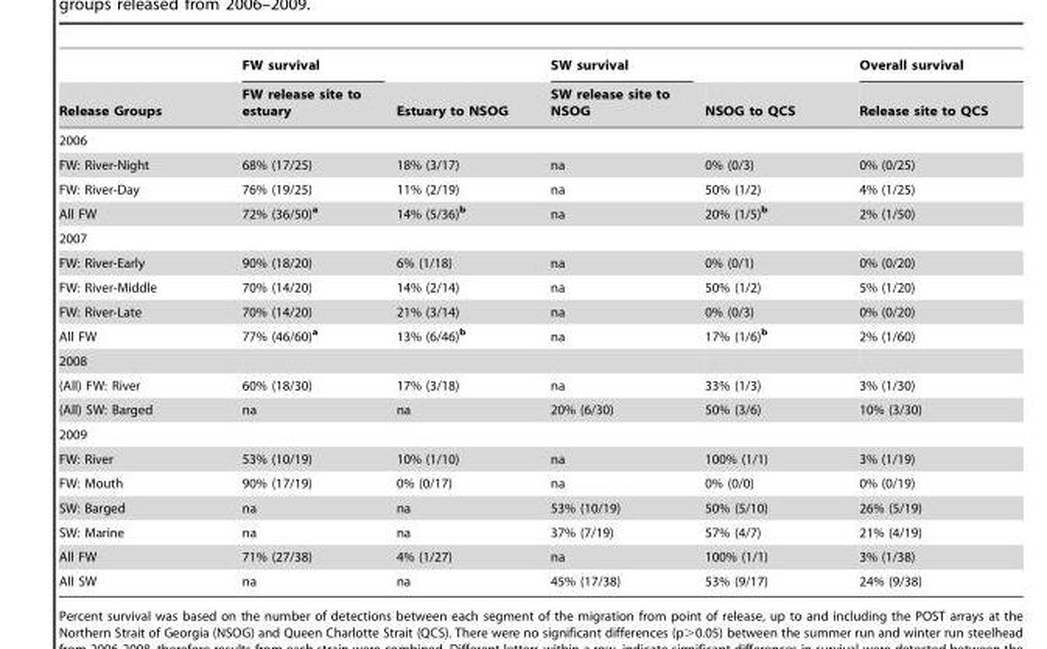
<table><thead><tr><td rowspan="2">Release Groups</td><td rowspan="2">FW survival FW release site to estuary</td><td rowspan="2">Estuary to NSOG</td><td rowspan="2">SW survival SW release site to NSOG</td><td rowspan="2">NSOG to QCS</td><td rowspan="2">Overall survival Release site to QCS</td></tr><tr></tr></thead><tbody><tr><td colspan="6">2006</td></tr><tr><td>FW: River-Night</td><td>68% (17/25)</td><td>18% (3/17)</td><td>na</td><td>0% (0/3)</td><td>0% (0/25)</td></tr><tr><td>FW: River-Day</td><td>76% (19/25)</td><td>11% (2/19)</td><td>na</td><td>50% (1/2)</td><td>4% (1/25)</td></tr><tr><td>All FW</td><td>72% (36/50)<sup>a</sup></td><td>14% (5/36)<sup>b</sup></td><td>na</td><td>20% (1/5)<sup>b</sup></td><td>2% (1/50)</td></tr><tr><td colspan="6">2007</td></tr><tr><td>FW: River-Early</td><td>90% (18/20)</td><td>6% (1/18)</td><td>na</td><td>0% (0/1)</td><td>0% (0/20)</td></tr><tr><td>FW: River-Middle</td><td>70% (14/20)</td><td>14% (2/14)</td><td>na</td><td>50% (1/2)</td><td>5% (1/20)</td></tr><tr><td>FW: River-Late</td><td>70% (14/20)</td><td>21% (3/14)</td><td>na</td><td>0% (0/3)</td><td>0% (0/20)</td></tr><tr><td>All FW</td><td>77% (46/60)<sup>a</sup></td><td>13% (6/46)<sup>b</sup></td><td>na</td><td>17% (1/6)<sup>b</sup></td><td>2% (1/60)</td></tr><tr><td colspan="6">2008</td></tr><tr><td>(All) FW: River</td><td>60% (18/30)</td><td>17% (3/18)</td><td>na</td><td>33% (1/3)</td><td>3% (1/30)</td></tr><tr><td>(All) SW: Barged</td><td>na</td><td>na</td><td>20% (6/30)</td><td>50% (3/6)</td><td>10% (3/30)</td></tr><tr><td colspan="6">2009</td></tr><tr><td>FW: River</td><td>53% (10/19)</td><td>10% (1/10)</td><td>na</td><td>100% (1/1)</td><td>3% (1/19)</td></tr><tr><td>FW: Mouth</td><td>90% (17/19)</td><td>0% (0/17)</td><td>na</td><td>0% (0/0)</td><td>0% (0/19)</td></tr><tr><td>SW: Barged</td><td>na</td><td>na</td><td>53% (10/19)</td><td>50% (5/10)</td><td>26% (5/19)</td></tr><tr><td>SW: Marine</td><td>na</td><td>na</td><td>37% (7/19)</td><td>57% (4/7)</td><td>21% (4/19)</td></tr><tr><td>All FW</td><td>71% (27/38)</td><td>4% (1/27)</td><td>na</td><td>100% (1/1)</td><td>3% (1/38)</td></tr><tr><td>All SW</td><td>na</td><td>na</td><td>45% (17/38)</td><td>53% (9/17)</td><td>24% (9/38)</td></tr></tbody></table>